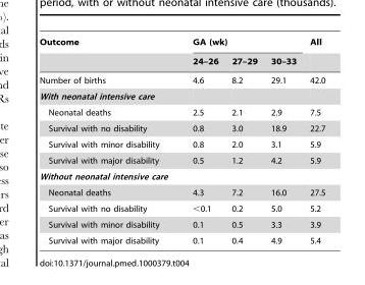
<table><thead><tr><td rowspan="2">Outcome</td><td colspan="3">GA (wk)</td><td rowspan="2">All</td></tr><tr><td>24–26</td><td>27–29</td><td>30–33</td></tr></thead><tbody><tr><td>Number of births</td><td>4.6</td><td>8.2</td><td>29.1</td><td>42.0</td></tr><tr><td colspan="5">With neonatal intensive care</td></tr><tr><td>Neonatal deaths</td><td>2.5</td><td>2.1</td><td>2.9</td><td>7.5</td></tr><tr><td>Survival with no disability</td><td>0.8</td><td>3.0</td><td>18.9</td><td>22.7</td></tr><tr><td>Survival with minor disability</td><td>0.8</td><td>2.0</td><td>3.1</td><td>5.9</td></tr><tr><td>Survival with major disability</td><td>0.5</td><td>1.2</td><td>4.2</td><td>5.9</td></tr><tr><td colspan="5">Without neonatal intensive care</td></tr><tr><td>Neonatal deaths</td><td>4.3</td><td>7.2</td><td>16.0</td><td>27.5</td></tr><tr><td>Survival with no disability</td><td>&lt;0.1</td><td>0.2</td><td>5.0</td><td>5.2</td></tr><tr><td>Survival with minor disability</td><td>0.1</td><td>0.5</td><td>3.3</td><td>3.9</td></tr><tr><td>Survival with major disability</td><td>0.1</td><td>0.4</td><td>4.9</td><td>5.4</td></tr></tbody></table>